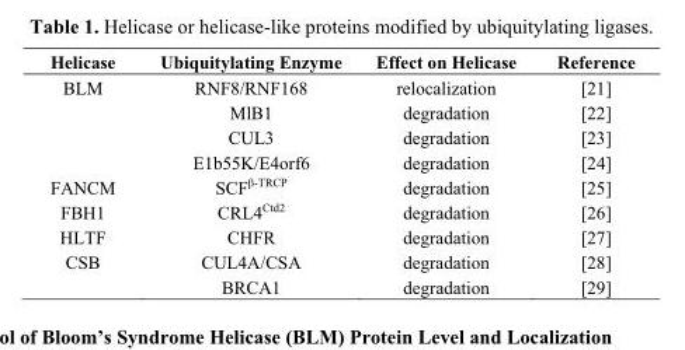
<table><thead><tr><td>Helicase</td><td>Ubiquitylating Enzyme</td><td>Effect on Helicase</td><td>Reference</td></tr></thead><tbody><tr><td rowspan="4">BLM</td><td>RNF8/RNF168</td><td>relocalization</td><td>[21]</td></tr><tr><td>MlB1</td><td>degradation</td><td>[22]</td></tr><tr><td>CUL3</td><td>degradation</td><td>[23]</td></tr><tr><td>E1b55K/E4orf6</td><td>degradation</td><td>[24]</td></tr><tr><td>FANCM</td><td>SCF<sup>β-TRCP</sup></td><td>degradation</td><td>[25]</td></tr><tr><td>FBH1</td><td>CRL4<sup>Ctd2</sup></td><td>degradation</td><td>[26]</td></tr><tr><td>HLTF</td><td>CHFR</td><td>degradation</td><td>[27]</td></tr><tr><td rowspan="2">CSB</td><td>CUL4A/CSA</td><td>degradation</td><td>[28]</td></tr><tr><td>BRCA1</td><td>degradation</td><td>[29]</td></tr></tbody></table>